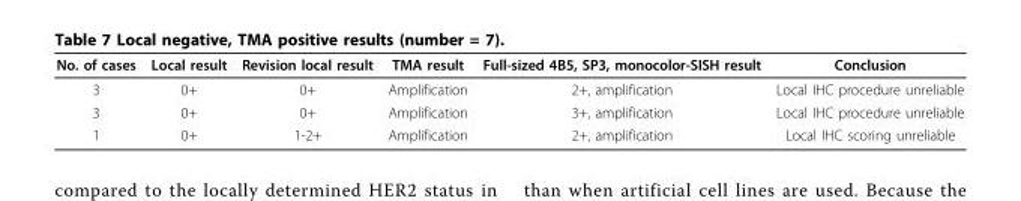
<table><thead><tr><td>No. of cases</td><td>Local result</td><td>Revision local result</td><td>TMA result</td><td>Full-sized 4B5, SP3, monocolor-SISH result</td><td>Conclusion</td></tr></thead><tbody><tr><td>3</td><td>0+</td><td>0+</td><td>Amplification</td><td>2+, amplification</td><td>Local IHC procedure unreliable</td></tr><tr><td>3</td><td>0+</td><td>0+</td><td>Amplification</td><td>3+, amplification</td><td>Local IHC procedure unreliable</td></tr><tr><td>1</td><td>0+</td><td>1-2+</td><td>Amplification</td><td>2+, amplification</td><td>Local IHC scoring unreliable</td></tr></tbody></table>